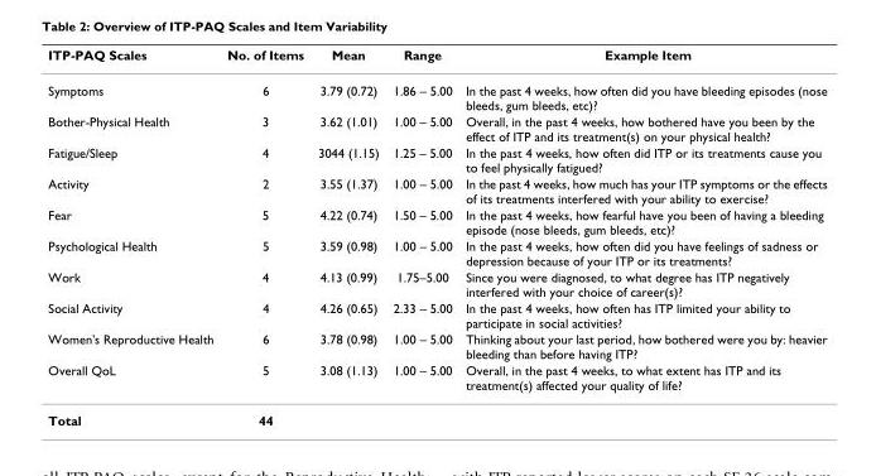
<table><thead><tr><td>ITP-PAQ Scales</td><td>No. of Items</td><td>Mean</td><td>Range</td><td>Example Item</td></tr></thead><tbody><tr><td>Symptoms</td><td>6</td><td>3.79 (0.72)</td><td>1.86 – 5.00</td><td>In the past 4 weeks, how often did you have bleeding episodes (nose bleeds, gum bleeds, etc)?</td></tr><tr><td>Bother-Physical Health</td><td>3</td><td>3.62 (1.01)</td><td>1.00 – 5.00</td><td>Overall, in the past 4 weeks, how bothered have you been by the effect of ITP and its treatment(s) on your physical health?</td></tr><tr><td>Fatigue/Sleep</td><td>4</td><td>3044 (1.15)</td><td>1.25 – 5.00</td><td>In the past 4 weeks, how often did ITP or its treatments cause you to feel physically fatigued?</td></tr><tr><td>Activity</td><td>2</td><td>3.55 (1.37)</td><td>1.00 – 5.00</td><td>In the past 4 weeks, how much has your ITP symptoms or the effects of its treatments interfered with your ability to exercise?</td></tr><tr><td>Fear</td><td>5</td><td>4.22 (0.74)</td><td>1.50 – 5.00</td><td>In the past 4 weeks, how fearful have you been of having a bleeding episode (nose bleeds, gum bleeds, etc)?</td></tr><tr><td>Psychological Health</td><td>5</td><td>3.59 (0.98)</td><td>1.00 – 5.00</td><td>In the past 4 weeks, how often did you have feelings of sadness or depression because of your ITP or its treatments?</td></tr><tr><td>Work</td><td>4</td><td>4.13 (0.99)</td><td>1.75–5.00</td><td>Since you were diagnosed, to what degree has ITP negatively interfered with your choice of career(s)?</td></tr><tr><td>Social Activity</td><td>4</td><td>4.26 (0.65)</td><td>2.33 – 5.00</td><td>In the past 4 weeks, how often has ITP limited your ability to participate in social activities?</td></tr><tr><td>Women&#x27;s Reproductive Health</td><td>6</td><td>3.78 (0.98)</td><td>1.00 – 5.00</td><td>Thinking about your last period, how bothered were you by: heavier bleeding than before having ITP?</td></tr><tr><td>Overall QoL</td><td>5</td><td>3.08 (1.13)</td><td>1.00 – 5.00</td><td>Overall, in the past 4 weeks, to what extent has ITP and its treatment(s) affected your quality of life?</td></tr><tr><td>Total</td><td>44</td><td></td><td></td><td></td></tr></tbody></table>